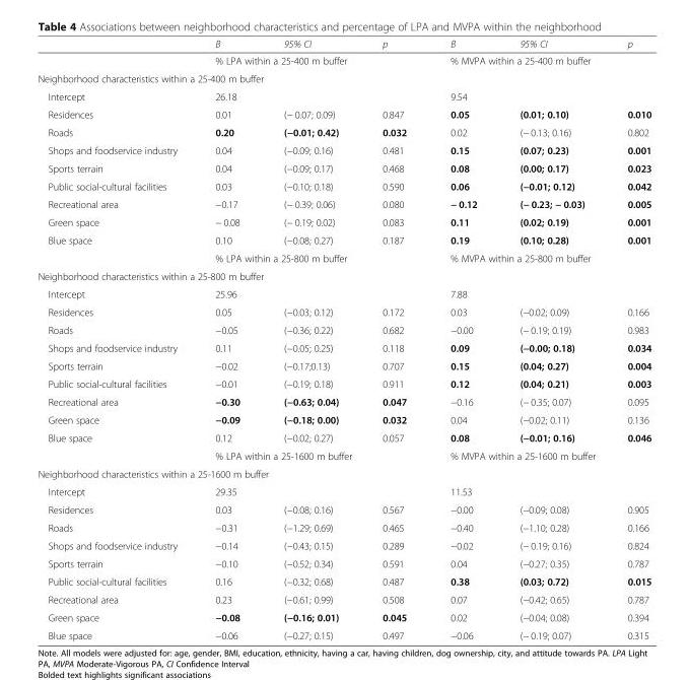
<table><thead><tr><td></td><td>B</td><td>95% CI</td><td>p</td><td>B</td><td>95% CI</td><td>p</td></tr></thead><tbody><tr><td></td><td colspan="3">% LPA within a 25-400 m buffer</td><td colspan="3">% MVPA within a 25-400 m buffer</td></tr><tr><td colspan="7">Neighborhood characteristics within a 25-400 m buffer</td></tr><tr><td>Intercept</td><td>26.18</td><td></td><td></td><td>9.54</td><td></td><td></td></tr><tr><td>Residences</td><td>0.01</td><td>(− 0.07; 0.09)</td><td>0.847</td><td>0.05</td><td>(0.01; 0.10)</td><td>0.010</td></tr><tr><td>Roads</td><td>0.20</td><td>(−0.01; 0.42)</td><td>0.032</td><td>0.02</td><td>(− 0.13; 0.16)</td><td>0.802</td></tr><tr><td>Shops and foodservice industry</td><td>0.04</td><td>(−0.09; 0.16)</td><td>0.481</td><td>0.15</td><td>(0.07; 0.23)</td><td>0.001</td></tr><tr><td>Sports terrain</td><td>0.04</td><td>(−0.09; 0.17)</td><td>0.468</td><td>0.08</td><td>(0.00; 0.17)</td><td>0.023</td></tr><tr><td>Public social-cultural facilities</td><td>0.03</td><td>(−0.10; 0.18)</td><td>0.590</td><td>0.06</td><td>(−0.01; 0.12)</td><td>0.042</td></tr><tr><td>Recreational area</td><td>−0.17</td><td>(− 0.39; 0.06)</td><td>0.080</td><td>− 0.12</td><td>(− 0.23; − 0.03)</td><td>0.005</td></tr><tr><td>Green space</td><td>− 0.08</td><td>(− 0.19; 0.02)</td><td>0.083</td><td>0.11</td><td>(0.02; 0.19)</td><td>0.001</td></tr><tr><td rowspan="2">Blue space</td><td>0.10</td><td>(−0.08; 0.27)</td><td>0.187</td><td>0.19</td><td>(0.10; 0.28)</td><td>0.001</td></tr><tr><td colspan="3">% LPA within a 25-800 m buffer</td><td colspan="3">% MVPA within a 25-800 m buffer</td></tr><tr><td colspan="7">Neighborhood characteristics within a 25-800 m buffer</td></tr><tr><td>Intercept</td><td>25.96</td><td></td><td></td><td>7.88</td><td></td><td></td></tr><tr><td>Residences</td><td>0.05</td><td>(−0.03; 0.12)</td><td>0.172</td><td>0.03</td><td>(−0.02; 0.09)</td><td>0.166</td></tr><tr><td>Roads</td><td>−0.05</td><td>(−0.36; 0.22)</td><td>0.682</td><td>−0.00</td><td>(− 0.19; 0.19)</td><td>0.983</td></tr><tr><td>Shops and foodservice industry</td><td>0.11</td><td>(−0.05; 0.25)</td><td>0.118</td><td>0.09</td><td>(−0.00; 0.18)</td><td>0.034</td></tr><tr><td>Sports terrain</td><td>−0.02</td><td>(−0.17;0.13)</td><td>0.707</td><td>0.15</td><td>(0.04; 0.27)</td><td>0.004</td></tr><tr><td>Public social-cultural facilities</td><td>−0.01</td><td>(−0.19; 0.18)</td><td>0.911</td><td>0.12</td><td>(0.04; 0.21)</td><td>0.003</td></tr><tr><td>Recreational area</td><td>−0.30</td><td>(−0.63; 0.04)</td><td>0.047</td><td>−0.16</td><td>(− 0.35; 0.07)</td><td>0.095</td></tr><tr><td>Green space</td><td>−0.09</td><td>(−0.18; 0.00)</td><td>0.032</td><td>0.04</td><td>(−0.02; 0.11)</td><td>0.136</td></tr><tr><td rowspan="2">Blue space</td><td>0.12</td><td>(−0.02; 0.27)</td><td>0.057</td><td>0.08</td><td>(−0.01; 0.16)</td><td>0.046</td></tr><tr><td colspan="3">% LPA within a 25-1600 m buffer</td><td colspan="3">% MVPA within a 25-1600 m buffer</td></tr><tr><td colspan="7">Neighborhood characteristics within a 25-1600 m buffer</td></tr><tr><td>Intercept</td><td>29.35</td><td></td><td></td><td>11.53</td><td></td><td></td></tr><tr><td>Residences</td><td>0.03</td><td>(−0.08; 0.16)</td><td>0.567</td><td>−0.00</td><td>(−0.09; 0.08)</td><td>0.905</td></tr><tr><td>Roads</td><td>−0.31</td><td>(−1.29; 0.69)</td><td>0.465</td><td>−0.40</td><td>(−1.10; 0.28)</td><td>0.166</td></tr><tr><td>Shops and foodservice industry</td><td>−0.14</td><td>(−0.43; 0.15)</td><td>0.289</td><td>−0.02</td><td>(− 0.19; 0.16)</td><td>0.824</td></tr><tr><td>Sports terrain</td><td>−0.10</td><td>(−0.52; 0.34)</td><td>0.591</td><td>0.04</td><td>(−0.27; 0.35)</td><td>0.787</td></tr><tr><td>Public social-cultural facilities</td><td>0.16</td><td>(−0.32; 0.68)</td><td>0.487</td><td>0.38</td><td>(0.03; 0.72)</td><td>0.015</td></tr><tr><td>Recreational area</td><td>0.23</td><td>(−0.61; 0.99)</td><td>0.508</td><td>0.07</td><td>(−0.42; 0.65)</td><td>0.787</td></tr><tr><td>Green space</td><td>−0.08</td><td>(−0.16; 0.01)</td><td>0.045</td><td>0.02</td><td>(−0.04; 0.08)</td><td>0.394</td></tr><tr><td>Blue space</td><td>−0.06</td><td>(−0.27; 0.15)</td><td>0.497</td><td>−0.06</td><td>(− 0.19; 0.07)</td><td>0.315</td></tr></tbody></table>